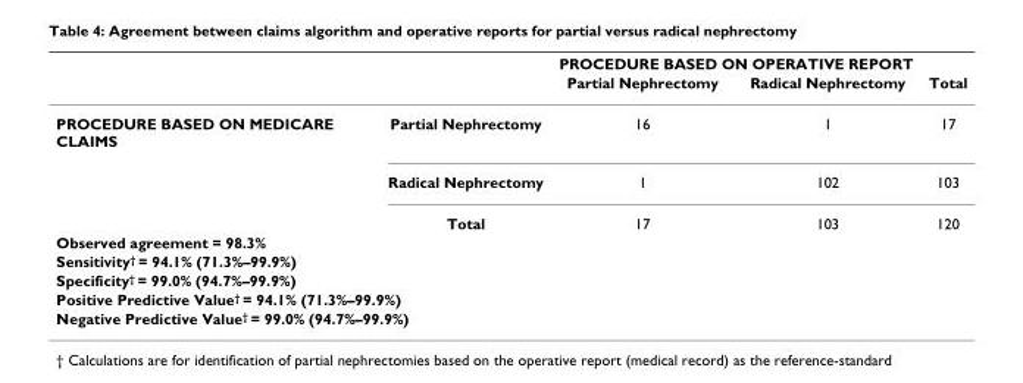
<table><thead><tr><td rowspan="2"></td><td rowspan="2"></td><td colspan="2">PROCEDURE BASED ON OPERATIVE REPORT</td><td rowspan="2">Total</td></tr><tr><td>Partial Nephrectomy</td><td>Radical Nephrectomy</td></tr></thead><tbody><tr><td rowspan="3">PROCEDURE BASED ON MEDICARE CLAIMS</td><td>Partial Nephrectomy</td><td>16</td><td>1</td><td>17</td></tr><tr><td>Radical Nephrectomy</td><td>1</td><td>102</td><td>103</td></tr><tr><td>Total</td><td>17</td><td>103</td><td>120</td></tr><tr><td colspan="5">Observed agreement = 98.3%</td></tr><tr><td colspan="5">Sensitivity<sup>†</sup> = 94.1% (71.3%–99.9%)</td></tr><tr><td colspan="5">Specificity<sup>†</sup> = 99.0% (94.7%–99.9%)</td></tr><tr><td colspan="5">Positive Predictive Value<sup>†</sup> = 94.1% (71.3%–99.9%)</td></tr><tr><td colspan="5">Negative Predictive Value<sup>†</sup> = 99.0% (94.7%–99.9%)</td></tr></tbody></table>